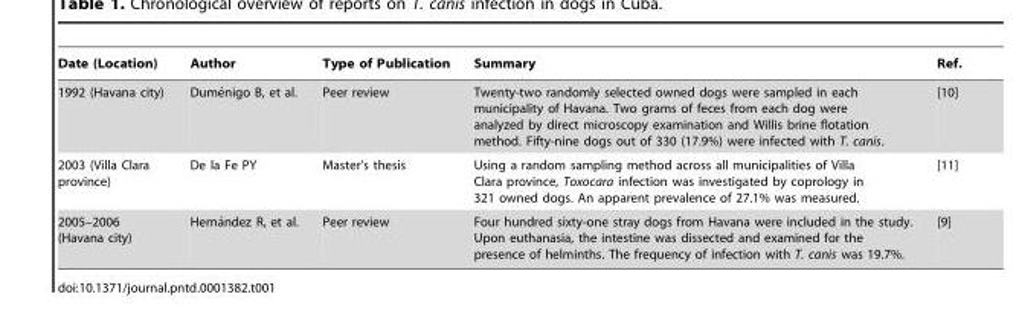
<table><thead><tr><td>Date (Location)</td><td>Author</td><td>Type of Publication</td><td>Summary</td><td>Ref.</td></tr></thead><tbody><tr><td>1992 (Havana city)</td><td>Dume´nigo B, et al.</td><td>Peer review</td><td>Twenty-two randomly selected owned dogs were sampled in each municipality of Havana. Two grams of feces from each dog were analyzed by direct microscopy examination and Willis brine flotation method. Fifty-nine dogs out of 330 (17.9%) were infected with T. canis.</td><td>[10]</td></tr><tr><td>2003 (Villa Clara province)</td><td>De la Fe PY</td><td>Master’s thesis</td><td>Using a random sampling method across all municipalities of Villa Clara province, Toxocara infection was investigated by coprology in 321 owned dogs. An apparent prevalence of 27.1% was measured.</td><td>[11]</td></tr><tr><td>2005–2006 (Havana city)</td><td>Herna´ndez R, et al.</td><td>Peer review</td><td>Four hundred sixty-one stray dogs from Havana were included in the study. Upon euthanasia, the intestine was dissected and examined for the presence of helminths. The frequency of infection with T. canis was 19.7%.</td><td>[9]</td></tr></tbody></table>